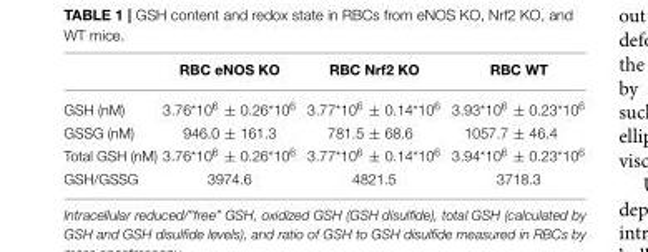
<table><thead><tr><td></td><td>RBC eNOS KO</td><td>RBC Nrf2 KO</td><td>RBC WT</td></tr></thead><tbody><tr><td>GSH (nM)</td><td>3.76*10<sup>6</sup> ± 0.26*10<sup>6</sup></td><td>3.77*10<sup>6</sup> ± 0.14*10<sup>6</sup></td><td>3.93*10<sup>6</sup> ± 0.23*10<sup>6</sup></td></tr><tr><td>GSSG (nM)</td><td>946.0 ± 161.3</td><td>781.5 ± 68.6</td><td>1057.7 ± 46.4</td></tr><tr><td>Total GSH (nM)</td><td>3.76*10<sup>6</sup> ± 0.26*10<sup>6</sup></td><td>3.77*10<sup>6</sup> ± 0.14*10<sup>6</sup></td><td>3.94*10<sup>6</sup> ± 0.23*10<sup>6</sup></td></tr><tr><td>GSH/GSSG</td><td>3974.6</td><td>4821.5</td><td>3718.3</td></tr></tbody></table>